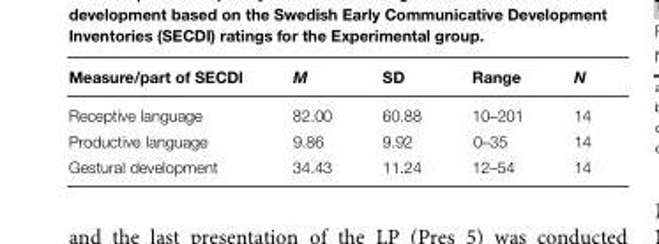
<table><thead><tr><td>Measure/part of SECDI</td><td>M</td><td>SD</td><td>Range</td><td>N</td></tr></thead><tbody><tr><td>Receptive language</td><td>82.00</td><td>60.88</td><td>10–201</td><td>14</td></tr><tr><td>Productive language</td><td>9.86</td><td>9.92</td><td>0–35</td><td>14</td></tr><tr><td>Gestural development</td><td>34.43</td><td>11.24</td><td>12–54</td><td>14</td></tr></tbody></table>